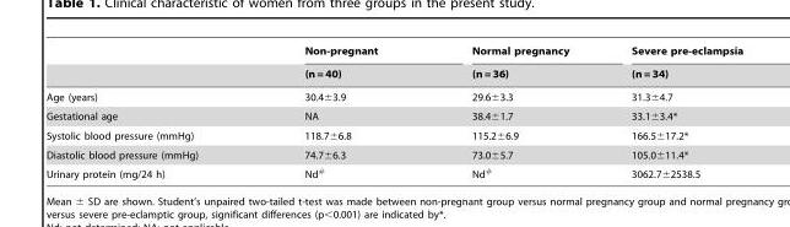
<table><thead><tr><td rowspan="2"></td><td rowspan="2">Non-pregnant (n = 40)</td><td rowspan="2">Normal pregnancy (n = 36)</td><td rowspan="2">Severe pre-eclampsia (n = 34)</td></tr><tr></tr></thead><tbody><tr><td>Age (years)</td><td>30.4±3.9</td><td>29.6±3.3</td><td>31.3±4.7</td></tr><tr><td>Gestational age</td><td>NA</td><td>38.4±1.7</td><td>33.1±3.4*</td></tr><tr><td>Systolic blood pressure (mmHg)</td><td>118.7±6.8</td><td>115.2±6.9</td><td>166.5±17.2*</td></tr><tr><td>Diastolic blood pressure (mmHg)</td><td>74.7±6.3</td><td>73.0±5.7</td><td>105.0±11.4*</td></tr><tr><td>Urinary protein (mg/24 h)</td><td>Nd#</td><td>Nd#</td><td>3062.7±2538.5</td></tr></tbody></table>